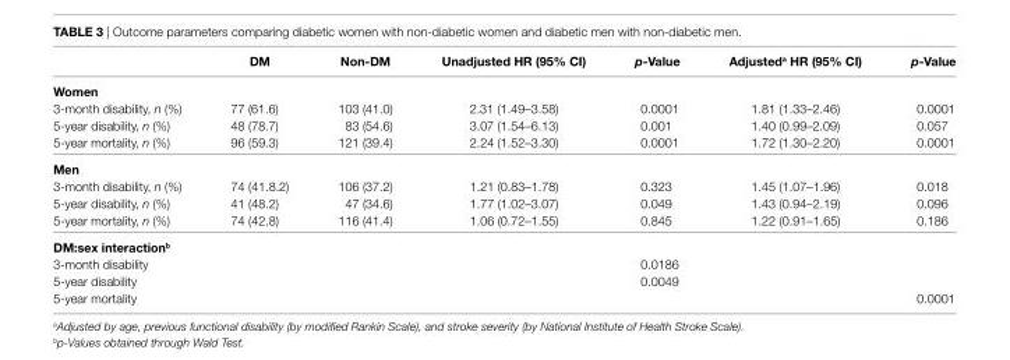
<table><thead><tr><td></td><td>DM</td><td>non-DM</td><td>Unadjusted hr (95% ci)</td><td>p-Value</td><td>adjusted<sup>a</sup> hr (95% ci)</td><td>p-Value</td></tr></thead><tbody><tr><td colspan="7">Women</td></tr><tr><td>3-month disability, n (%)</td><td>77 (61.6)</td><td>103 (41.0)</td><td>2.31 (1.49–3.58)</td><td>0.0001</td><td>1.81 (1.33–2.46)</td><td>0.0001</td></tr><tr><td>5-year disability, n (%)</td><td>48 (78.7)</td><td>83 (54.6)</td><td>3.07 (1.54–6.13)</td><td>0.001</td><td>1.40 (0.99–2.09)</td><td>0.057</td></tr><tr><td>5-year mortality, n (%)</td><td>96 (59.3)</td><td>121 (39.4)</td><td>2.24 (1.52–3.30)</td><td>0.0001</td><td>1.72 (1.30–2.20)</td><td>0.0001</td></tr><tr><td colspan="7">Men</td></tr><tr><td>3-month disability, n (%)</td><td>74 (41.8.2)</td><td>106 (37.2)</td><td>1.21 (0.83–1.78)</td><td>0.323</td><td>1.45 (1.07–1.96)</td><td>0.018</td></tr><tr><td>5-year disability, n (%)</td><td>41 (48.2)</td><td>47 (34.6)</td><td>1.77 (1.02–3.07)</td><td>0.049</td><td>1.43 (0.94–2.19)</td><td>0.096</td></tr><tr><td>5-year mortality, n (%)</td><td>74 (42.8)</td><td>116 (41.4)</td><td>1.06 (0.72–1.55)</td><td>0.845</td><td>1.22 (0.91–1.65)</td><td>0.186</td></tr><tr><td colspan="7">DM:sex interaction<sup>b</sup></td></tr><tr><td>3-month disability</td><td></td><td></td><td></td><td>0.0186</td><td></td><td></td></tr><tr><td>5-year disability</td><td></td><td></td><td></td><td>0.0049</td><td></td><td></td></tr><tr><td>5-year mortality</td><td></td><td></td><td></td><td></td><td></td><td>0.0001</td></tr></tbody></table>